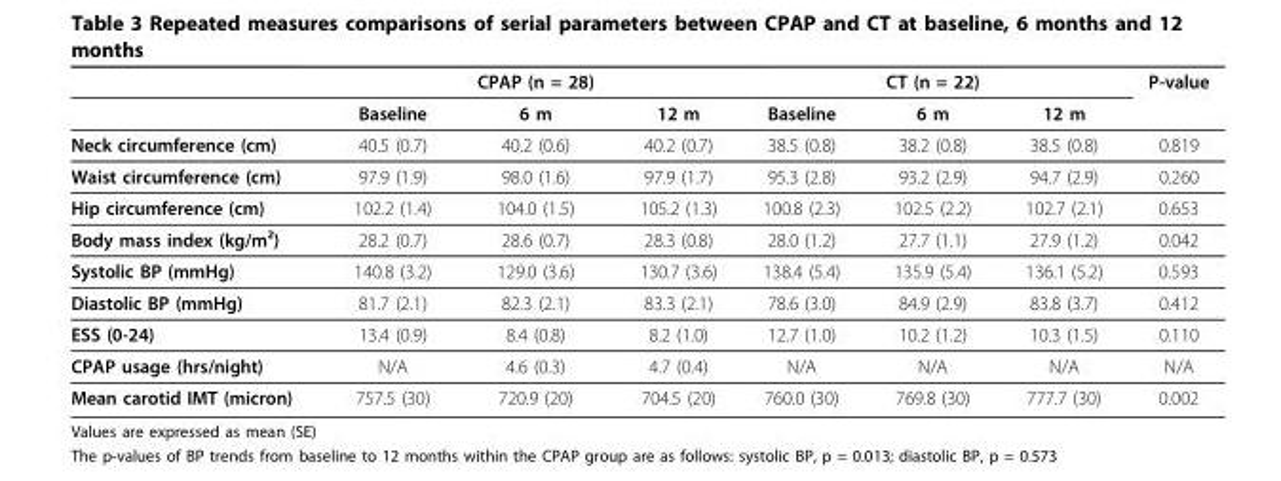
<table><thead><tr><td rowspan="2"></td><td rowspan="2">Baseline</td><td rowspan="2">CPAP (n = 28) 6 m</td><td rowspan="2">12 m</td><td rowspan="2">Baseline</td><td rowspan="2">CT (n = 22) 6 m</td><td rowspan="2">12 m</td><td rowspan="2">P-value</td></tr><tr></tr></thead><tbody><tr><td>Neck circumference (cm)</td><td>40.5 (0.7)</td><td>40.2 (0.6)</td><td>40.2 (0.7)</td><td>38.5 (0.8)</td><td>38.2 (0.8)</td><td>38.5 (0.8)</td><td>0.819</td></tr><tr><td>Waist circumference (cm)</td><td>97.9 (1.9)</td><td>98.0 (1.6)</td><td>97.9 (1.7)</td><td>95.3 (2.8)</td><td>93.2 (2.9)</td><td>94.7 (2.9)</td><td>0.260</td></tr><tr><td>Hip circumference (cm)</td><td>102.2 (1.4)</td><td>104.0 (1.5)</td><td>105.2 (1.3)</td><td>100.8 (2.3)</td><td>102.5 (2.2)</td><td>102.7 (2.1)</td><td>0.653</td></tr><tr><td>Body mass index (kg/m²)</td><td>28.2 (0.7)</td><td>28.6 (0.7)</td><td>28.3 (0.8)</td><td>28.0 (1.2)</td><td>27.7 (1.1)</td><td>27.9 (1.2)</td><td>0.042</td></tr><tr><td>Systolic BP (mmHg)</td><td>140.8 (3.2)</td><td>129.0 (3.6)</td><td>130.7 (3.6)</td><td>138.4 (5.4)</td><td>135.9 (5.4)</td><td>136.1 (5.2)</td><td>0.593</td></tr><tr><td>Diastolic BP (mmHg)</td><td>81.7 (2.1)</td><td>82.3 (2.1)</td><td>83.3 (2.1)</td><td>78.6 (3.0)</td><td>84.9 (2.9)</td><td>83.8 (3.7)</td><td>0.412</td></tr><tr><td>ESS (0-24)</td><td>13.4 (0.9)</td><td>8.4 (0.8)</td><td>8.2 (1.0)</td><td>12.7 (1.0)</td><td>10.2 (1.2)</td><td>10.3 (1.5)</td><td>0.110</td></tr><tr><td>CPAP usage (hrs/night)</td><td>N/A</td><td>4.6 (0.3)</td><td>4.7 (0.4)</td><td>N/A</td><td>N/A</td><td>N/A</td><td>N/A</td></tr><tr><td>Mean carotid IMT (micron)</td><td>757.5 (30)</td><td>720.9 (20)</td><td>704.5 (20)</td><td>760.0 (30)</td><td>769.8 (30)</td><td>777.7 (30)</td><td>0.002</td></tr></tbody></table>